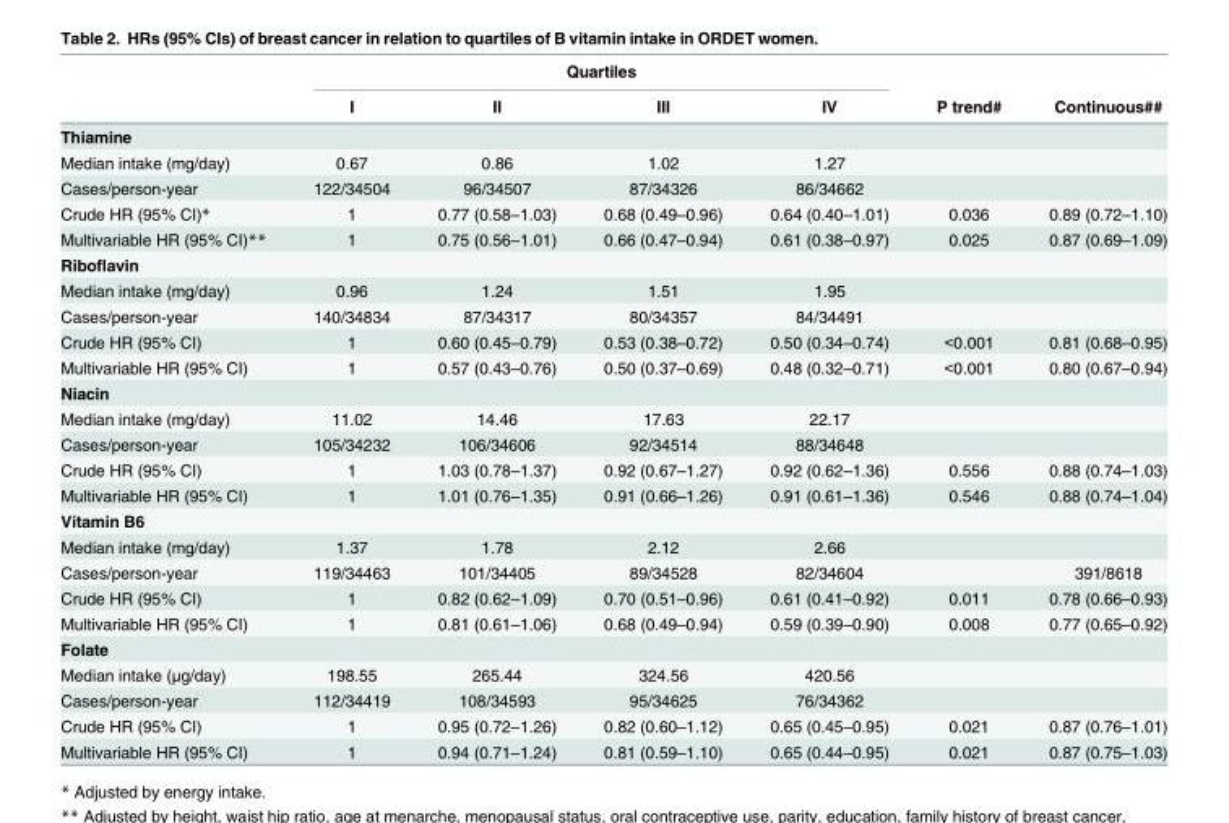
<table><thead><tr><td rowspan="2"></td><td colspan="4">Quartiles</td><td rowspan="2">P trend#</td><td rowspan="2">Continuous##</td></tr><tr><td>I</td><td>II</td><td>III</td><td>IV</td></tr></thead><tbody><tr><td colspan="7">Thiamine</td></tr><tr><td>Median intake (mg/day)</td><td>0.67</td><td>0.86</td><td>1.02</td><td>1.27</td><td></td><td></td></tr><tr><td>Cases/person-year</td><td>122/34504</td><td>96/34507</td><td>87/34326</td><td>86/34662</td><td></td><td></td></tr><tr><td>Crude HR (95% CI)*</td><td>1</td><td>0.77 (0.58–1.03)</td><td>0.68 (0.49–0.96)</td><td>0.64 (0.40–1.01)</td><td>0.036</td><td>0.89 (0.72–1.10)</td></tr><tr><td>Multivariable HR (95% CI)**</td><td>1</td><td>0.75 (0.56–1.01)</td><td>0.66 (0.47–0.94)</td><td>0.61 (0.38–0.97)</td><td>0.025</td><td>0.87 (0.69–1.09)</td></tr><tr><td colspan="7">Riboflavin</td></tr><tr><td>Median intake (mg/day)</td><td>0.96</td><td>1.24</td><td>1.51</td><td>1.95</td><td></td><td></td></tr><tr><td>Cases/person-year</td><td>140/34834</td><td>87/34317</td><td>80/34357</td><td>84/34491</td><td></td><td></td></tr><tr><td>Crude HR (95% CI)</td><td>1</td><td>0.60 (0.45–0.79)</td><td>0.53 (0.38–0.72)</td><td>0.50 (0.34–0.74)</td><td>&lt;0.001</td><td>0.81 (0.68–0.95)</td></tr><tr><td>Multivariable HR (95% CI)</td><td>1</td><td>0.57 (0.43–0.76)</td><td>0.50 (0.37–0.69)</td><td>0.48 (0.32–0.71)</td><td>&lt;0.001</td><td>0.80 (0.67–0.94)</td></tr><tr><td colspan="7">Niacin</td></tr><tr><td>Median intake (mg/day)</td><td>11.02</td><td>14.46</td><td>17.63</td><td>22.17</td><td></td><td></td></tr><tr><td>Cases/person-year</td><td>105/34232</td><td>106/34606</td><td>92/34514</td><td>88/34648</td><td></td><td></td></tr><tr><td>Crude HR (95% CI)</td><td>1</td><td>1.03 (0.78–1.37)</td><td>0.92 (0.67–1.27)</td><td>0.92 (0.62–1.36)</td><td>0.556</td><td>0.88 (0.74–1.03)</td></tr><tr><td>Multivariable HR (95% CI)</td><td>1</td><td>1.01 (0.76–1.35)</td><td>0.91 (0.66–1.26)</td><td>0.91 (0.61–1.36)</td><td>0.546</td><td>0.88 (0.74–1.04)</td></tr><tr><td colspan="7">Vitamin B6</td></tr><tr><td>Median intake (mg/day)</td><td>1.37</td><td>1.78</td><td>2.12</td><td>2.66</td><td></td><td></td></tr><tr><td>Cases/person-year</td><td>119/34463</td><td>101/34405</td><td>89/34528</td><td>82/34604</td><td></td><td>391/8618</td></tr><tr><td>Crude HR (95% CI)</td><td>1</td><td>0.82 (0.62–1.09)</td><td>0.70 (0.51–0.96)</td><td>0.61 (0.41–0.92)</td><td>0.011</td><td>0.78 (0.66–0.93)</td></tr><tr><td>Multivariable HR (95% CI)</td><td>1</td><td>0.81 (0.61–1.06)</td><td>0.68 (0.49–0.94)</td><td>0.59 (0.39–0.90)</td><td>0.008</td><td>0.77 (0.65–0.92)</td></tr><tr><td colspan="7">Folate</td></tr><tr><td>Median intake (μg/day)</td><td>198.55</td><td>265.44</td><td>324.56</td><td>420.56</td><td></td><td></td></tr><tr><td>Cases/person-year</td><td>112/34419</td><td>108/34593</td><td>95/34625</td><td>76/34362</td><td></td><td></td></tr><tr><td>Crude HR (95% CI)</td><td>1</td><td>0.95 (0.72–1.26)</td><td>0.82 (0.60–1.12)</td><td>0.65 (0.45–0.95)</td><td>0.021</td><td>0.87 (0.76–1.01)</td></tr><tr><td>Multivariable HR (95% CI)</td><td>1</td><td>0.94 (0.71–1.24)</td><td>0.81 (0.59–1.10)</td><td>0.65 (0.44–0.95)</td><td>0.021</td><td>0.87 (0.75–1.03)</td></tr></tbody></table>